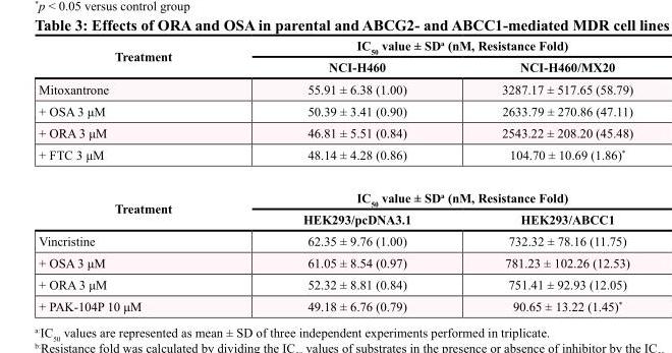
<table><tbody><tr><td rowspan="2">Treatment</td><td colspan="2">IC<sub>50</sub> value ± SD<sup>a</sup> (nM, Resistance Fold)</td></tr><tr><td>NCI-H460</td><td>NCI-H460/MX20</td></tr><tr><td>Mitoxantrone</td><td>55.91 ± 6.38 (1.00)</td><td>3287.17 ± 517.65 (58.79)</td></tr><tr><td>+ OSA 3 μM</td><td>50.39 ± 3.41 (0.90)</td><td>2633.79 ± 270.86 (47.11)</td></tr><tr><td>+ ORA 3 μM</td><td>46.81 ± 5.51 (0.84)</td><td>2543.22 ± 208.20 (45.48)</td></tr><tr><td>+ FTC 3 μM</td><td>48.14 ± 4.28 (0.86)</td><td>104.70 ± 10.69 (1.86)*</td></tr><tr><td rowspan="2">Treatment</td><td colspan="2">IC<sub>50</sub> value ± SD<sup>a</sup> (nM, Resistance Fold)</td></tr><tr><td>HEK293/pcDNA3.1</td><td>HEK293/ABCC1</td></tr><tr><td>Vincristine</td><td>62.35 ± 9.76 (1.00)</td><td>732.32 ± 78.16 (11.75)</td></tr><tr><td>+ OSA 3 μM</td><td>61.05 ± 8.54 (0.97)</td><td>781.23 ± 102.26 (12.53)</td></tr><tr><td>+ ORA 3 μM</td><td>52.32 ± 8.81 (0.84)</td><td>751.41 ± 92.93 (12.05)</td></tr><tr><td>+ PAK-104P 10 μM</td><td>49.18 ± 6.76 (0.79)</td><td>90.65 ± 13.22 (1.45)*</td></tr></tbody></table>